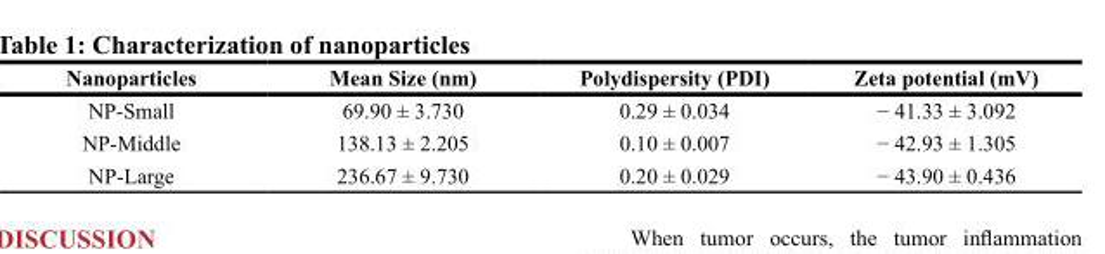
<table><thead><tr><td>Nanoparticles</td><td>Mean size (nm)</td><td>Polydispersity (PDI)</td><td>Zeta potential (mV)</td></tr></thead><tbody><tr><td>NP-Small</td><td>69.90 ± 3.730</td><td>0.29 ± 0.034</td><td>− 41.33 ± 3.092</td></tr><tr><td>NP-Middle</td><td>138.13 ± 2.205</td><td>0.10 ± 0.007</td><td>− 42.93 ± 1.305</td></tr><tr><td>NP-Large</td><td>236.67 ± 9.730</td><td>0.20 ± 0.029</td><td>− 43.90 ± 0.436</td></tr></tbody></table>